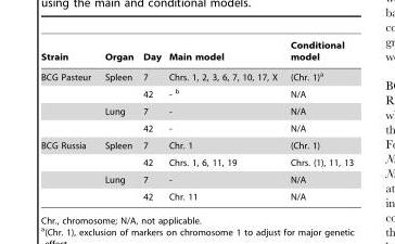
<table><thead><tr><td>Strain</td><td>Organ</td><td>Day</td><td>Main model</td><td>Conditional model</td></tr></thead><tbody><tr><td rowspan="4">BCG Pasteur</td><td>Spleen</td><td>7</td><td>Chrs. 1, 2, 3, 6, 7, 10, 17, X</td><td>(Chr. 1)<sup>a</sup></td></tr><tr><td></td><td>42</td><td>- b</td><td>N/A</td></tr><tr><td>Lung</td><td>7</td><td>-</td><td>N/A</td></tr><tr><td></td><td>42</td><td>-</td><td>N/A</td></tr><tr><td rowspan="4">BCG Russia</td><td>Spleen</td><td>7</td><td>Chr. 1</td><td>(Chr. 1)</td></tr><tr><td></td><td>42</td><td>Chrs. 1, 6, 11, 19</td><td>Chrs. (1), 11, 13</td></tr><tr><td>Lung</td><td>7</td><td>-</td><td>N/A</td></tr><tr><td></td><td>42</td><td>Chr. 11</td><td>N/A</td></tr></tbody></table>